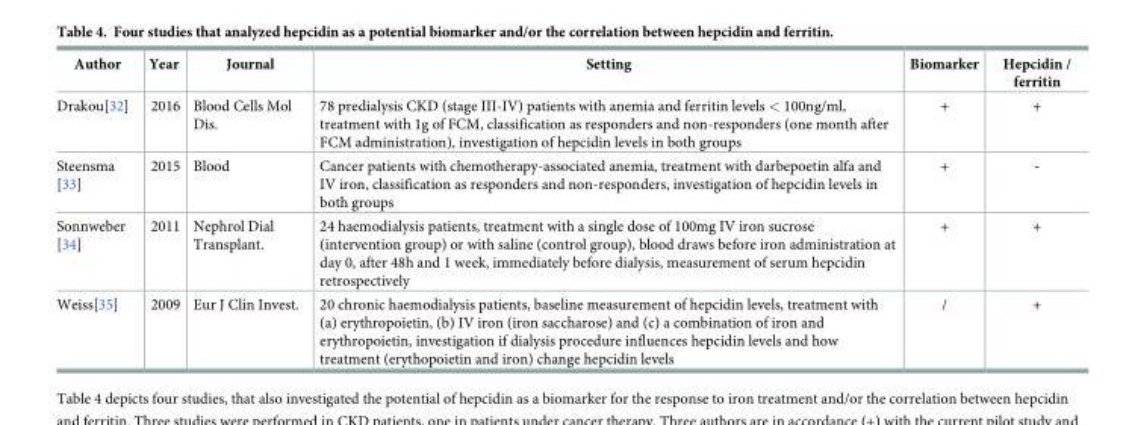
<table><thead><tr><td>Author</td><td>Year</td><td>Journal</td><td>Setting</td><td>Biomarker</td><td>Hepcidin / ferritin</td></tr></thead><tbody><tr><td>Drakou[32]</td><td>2016</td><td>Blood Cells Mol Dis.</td><td>78 predialysis CKD (stage III-IV) patients with anemia and ferritin levels &lt; 100ng/ml, treatment with 1g of FCM, classification as responders and non-responders (one month after FCM administration), investigation of hepcidin levels in both groups</td><td>+</td><td>+</td></tr><tr><td>Steensma [33]</td><td>2015</td><td>Blood</td><td>Cancer patients with chemotherapy-associated anemia, treatment with darbepoetin alfa and IV iron, classification as responders and non-responders, investigation of hepcidin levels in both groups</td><td>+</td><td>-</td></tr><tr><td>Sonnweber [34]</td><td>2011</td><td>Nephrol Dial Transplant.</td><td>24 haemodialysis patients, treatment with a single dose of 100mg IV iron sucrose (intervention group) or with saline (control group), blood draws before iron administration at day 0, after 48h and 1 week, immediately before dialysis, measurement of serum hepcidin retrospectively</td><td>+</td><td>+</td></tr><tr><td>Weiss[35]</td><td>2009</td><td>Eur J Clin Invest.</td><td>20 chronic haemodialysis patients, baseline measurement of hepcidin levels, treatment with (a) erythropoietin, (b) IV iron (iron saccharose) and (c) a combination of iron and erythropoietin, investigation if dialysis procedure influences hepcidin levels and how treatment (erythopoietin and iron) change hepcidin levels</td><td>/</td><td>+</td></tr></tbody></table>